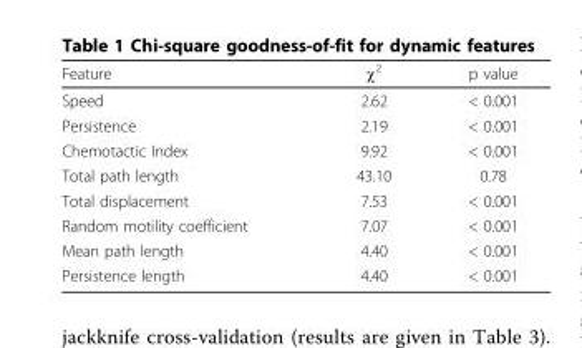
<table><thead><tr><td>Feature</td><td>χ<sup>2</sup></td><td>p value</td></tr></thead><tbody><tr><td>Speed</td><td>2.62</td><td>&lt; 0.001</td></tr><tr><td>Persistence</td><td>2.19</td><td>&lt; 0.001</td></tr><tr><td>Chemotactic Index</td><td>9.92</td><td>&lt; 0.001</td></tr><tr><td>Total path length</td><td>43.10</td><td>0.78</td></tr><tr><td>Total displacement</td><td>7.53</td><td>&lt; 0.001</td></tr><tr><td>Random motility coefficient</td><td>7.07</td><td>&lt; 0.001</td></tr><tr><td>Mean path length</td><td>4.40</td><td>&lt; 0.001</td></tr><tr><td>Persistence length</td><td>4.40</td><td>&lt; 0.001</td></tr></tbody></table>